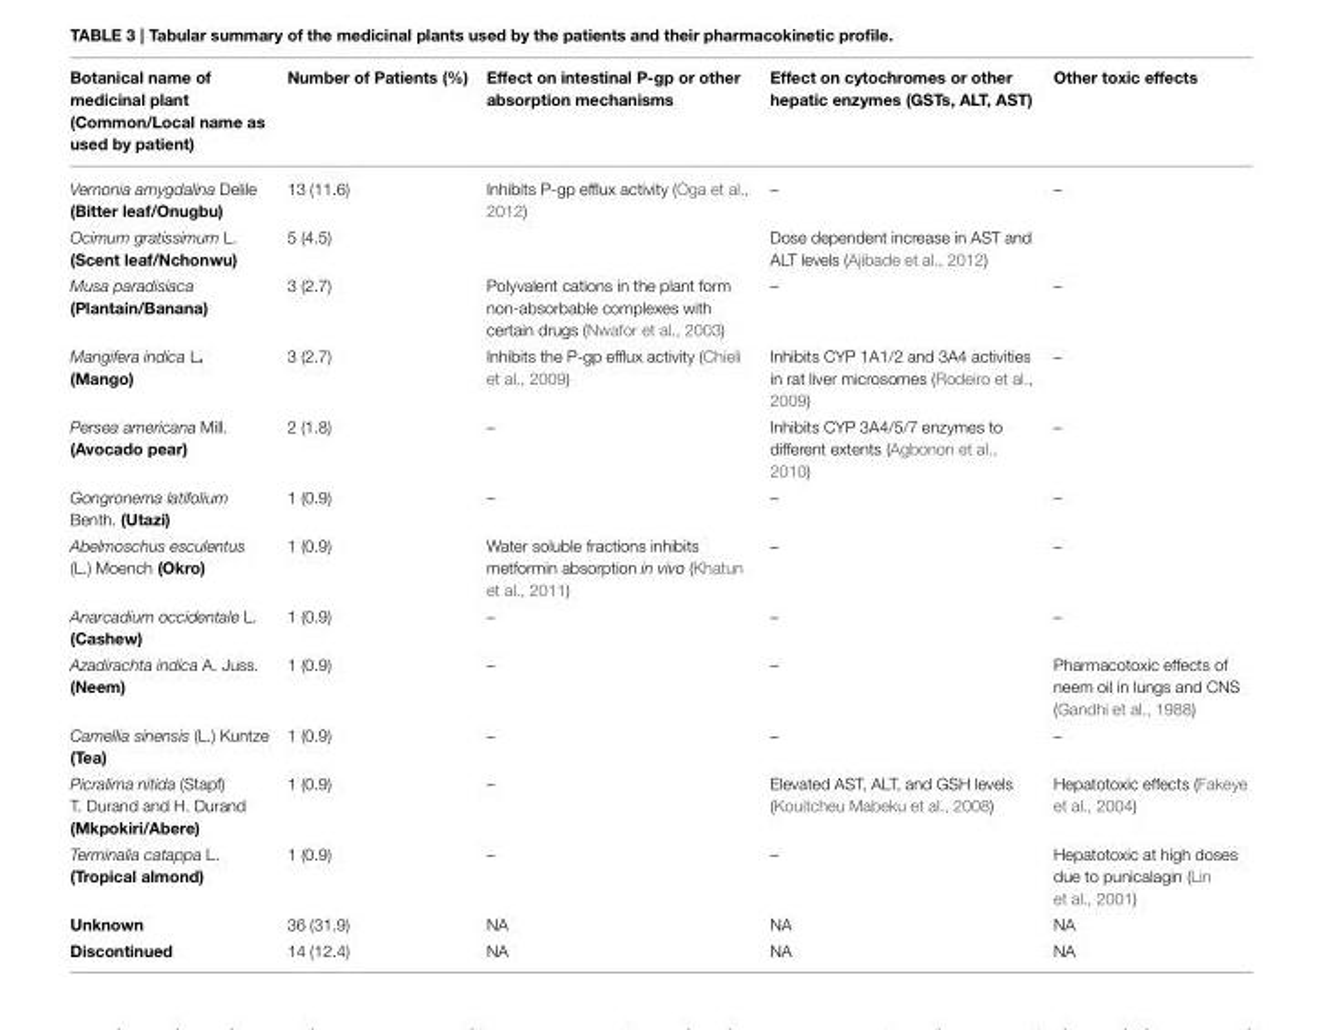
<table><thead><tr><td>Botanical name of medicinal plant (Common/Local name as used by patient)</td><td>Number of Patients (%)</td><td>Effect on intestinal P-gp or other absorption mechanisms</td><td>Effect on cytochromes or other hepatic enzymes (GSTs, ALT, AST)</td><td>Other toxic effects</td></tr></thead><tbody><tr><td>Vernonia amygdalina Delile (Bitter leaf/Onugbu)</td><td>13 (11.6)</td><td>Inhibits P-gp efflux activity (Oga et al., 2012)</td><td>–</td><td>–</td></tr><tr><td>Ocimum gratissimum L. (Scent leaf/Nchonwu)</td><td>5 (4.5)</td><td></td><td>Dose dependent increase in AST and ALT levels (Ajibade et al., 2012)</td><td></td></tr><tr><td>Musa paradisiaca (Plantain/Banana)</td><td>3 (2.7)</td><td>Polyvalent cations in the plant form non-absorbable complexes with certain drugs (Nwafor et al., 2003)</td><td>–</td><td>–</td></tr><tr><td>Mangifera indica L. (Mango)</td><td>3 (2.7)</td><td>Inhibits the P-gp efflux activity (Chieli et al., 2009)</td><td>Inhibits CYP 1A1/2 and 3A4 activities in rat liver microsomes (Rodeiro et al., 2009)</td><td>–</td></tr><tr><td>Persea americana Mill. (Avocado pear)</td><td>2 (1.8)</td><td>–</td><td>Inhibits CYP 3A4/5/7 enzymes to different extents (Agbonon et al., 2010)</td><td>–</td></tr><tr><td>Gongronema latifolium Benth. (Utazi)</td><td>1 (0.9)</td><td>–</td><td>–</td><td>–</td></tr><tr><td>Abelmoschus esculentus (L.) Moench (Okro)</td><td>1 (0.9)</td><td>Water soluble fractions inhibits metformin absorption in vivo (Khatun et al., 2011)</td><td>–</td><td>–</td></tr><tr><td>Anarcadium occidentale L. (Cashew)</td><td>1 (0.9)</td><td>–</td><td>–</td><td>–</td></tr><tr><td>Azadirachta indica A. Juss. (Neem)</td><td>1 (0.9)</td><td>–</td><td>–</td><td>Pharmacotoxic effects of neem oil in lungs and CNS (Gandhi et al., 1988)</td></tr><tr><td>Camellia sinensis (L.) Kuntze (Tea)</td><td>1 (0.9)</td><td>–</td><td>–</td><td>–</td></tr><tr><td>Picralima nitida (Stapf) T. Durand and H. Durand (Mkpokiri/Abere)</td><td>1 (0.9)</td><td>–</td><td>Elevated AST, ALT, and GSH levels (Kouitcheu Mabeku et al., 2008)</td><td>Hepatotoxic effects (Fakeye et al., 2004)</td></tr><tr><td>Terminalia catappa L. (Tropical almond)</td><td>1 (0.9)</td><td>–</td><td>–</td><td>Hepatotoxic at high doses due to punicalagin (Lin et al., 2001)</td></tr><tr><td>Unknown</td><td>36 (31.9)</td><td>NA</td><td>NA</td><td>NA</td></tr><tr><td>Discontinued</td><td>14 (12.4)</td><td>NA</td><td>NA</td><td>NA</td></tr></tbody></table>